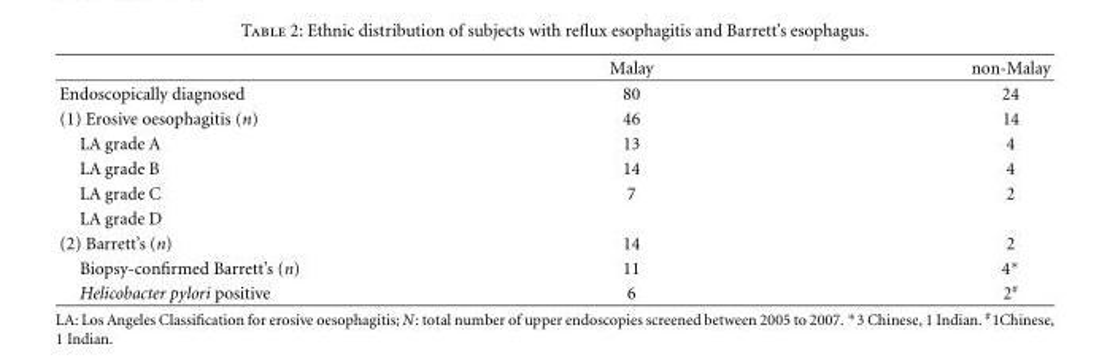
<table><thead><tr><td></td><td>Malay</td><td>non-Malay</td></tr></thead><tbody><tr><td>Endoscopically diagnosed</td><td>80</td><td>24</td></tr><tr><td>(1) Erosive oesophagitis (n)</td><td>46</td><td>14</td></tr><tr><td>LA grade A</td><td>13</td><td>4</td></tr><tr><td>LA grade B</td><td>14</td><td>4</td></tr><tr><td>LA grade C</td><td>7</td><td>2</td></tr><tr><td colspan="3">LA grade D</td></tr><tr><td>(2) Barrett’s (n)</td><td>14</td><td>2</td></tr><tr><td>Biopsy-confirmed Barrett’s (n)</td><td>11</td><td>4∗</td></tr><tr><td>Helicobacter pylori positive</td><td>6</td><td>2<sup>#</sup></td></tr></tbody></table>